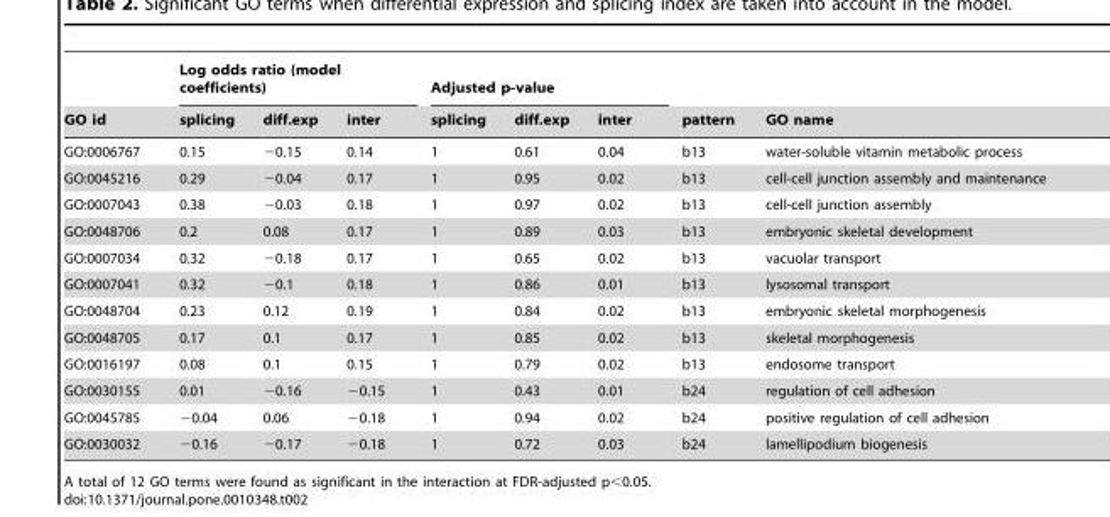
<table><thead><tr><td rowspan="2">GO id</td><td colspan="3">Log odds ratio (model coefficients)</td><td colspan="3">Adjusted p-value</td><td rowspan="2">pattern</td><td rowspan="2">GO name</td></tr><tr><td>splicing</td><td>diff.exp</td><td>inter</td><td>splicing</td><td>diff.exp</td><td>inter</td></tr></thead><tbody><tr><td>GO:0006767</td><td>0.15</td><td>−0.15</td><td>0.14</td><td>1</td><td>0.61</td><td>0.04</td><td>b13</td><td>water-soluble vitamin metabolic process</td></tr><tr><td>GO:0045216</td><td>0.29</td><td>−0.04</td><td>0.17</td><td>1</td><td>0.95</td><td>0.02</td><td>b13</td><td>cell-cell junction assembly and maintenance</td></tr><tr><td>GO:0007043</td><td>0.38</td><td>−0.03</td><td>0.18</td><td>1</td><td>0.97</td><td>0.02</td><td>b13</td><td>cell-cell junction assembly</td></tr><tr><td>GO:0048706</td><td>0.2</td><td>0.08</td><td>0.17</td><td>1</td><td>0.89</td><td>0.03</td><td>b13</td><td>embryonic skeletal development</td></tr><tr><td>GO:0007034</td><td>0.32</td><td>−0.18</td><td>0.17</td><td>1</td><td>0.65</td><td>0.02</td><td>b13</td><td>vacuolar transport</td></tr><tr><td>GO:0007041</td><td>0.32</td><td>−0.1</td><td>0.18</td><td>1</td><td>0.86</td><td>0.01</td><td>b13</td><td>lysosomal transport</td></tr><tr><td>GO:0048704</td><td>0.23</td><td>0.12</td><td>0.19</td><td>1</td><td>0.84</td><td>0.02</td><td>b13</td><td>embryonic skeletal morphogenesis</td></tr><tr><td>GO:0048705</td><td>0.17</td><td>0.1</td><td>0.17</td><td>1</td><td>0.85</td><td>0.02</td><td>b13</td><td>skeletal morphogenesis</td></tr><tr><td>GO:0016197</td><td>0.08</td><td>0.1</td><td>0.15</td><td>1</td><td>0.79</td><td>0.02</td><td>b13</td><td>endosome transport</td></tr><tr><td>GO:0030155</td><td>0.01</td><td>−0.16</td><td>−0.15</td><td>1</td><td>0.43</td><td>0.01</td><td>b24</td><td>regulation of cell adhesion</td></tr><tr><td>GO:0045785</td><td>−0.04</td><td>0.06</td><td>−0.18</td><td>1</td><td>0.94</td><td>0.02</td><td>b24</td><td>positive regulation of cell adhesion</td></tr><tr><td>GO:0030032</td><td>−0.16</td><td>−0.17</td><td>−0.18</td><td>1</td><td>0.72</td><td>0.03</td><td>b24</td><td>lamellipodium biogenesis</td></tr></tbody></table>